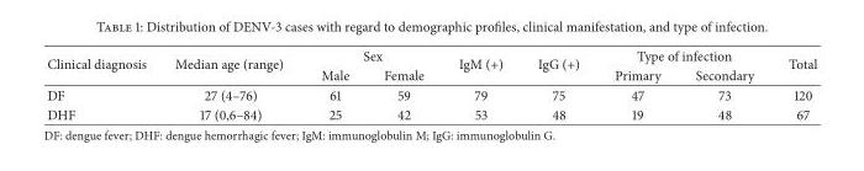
<table><thead><tr><td rowspan="2">Clinical diagnosis</td><td rowspan="2">Median age (range)</td><td colspan="2">Sex</td><td rowspan="2">IgM (+)</td><td rowspan="2">IgG (+)</td><td colspan="2">Type of infection</td><td rowspan="2">Total</td></tr><tr><td>Male</td><td>Female</td><td>Primary</td><td>Secondary</td></tr></thead><tbody><tr><td>DF</td><td>27 (4–76)</td><td>61</td><td>59</td><td>79</td><td>75</td><td>47</td><td>73</td><td>120</td></tr><tr><td>DHF</td><td>17 (0,6–84)</td><td>25</td><td>42</td><td>53</td><td>48</td><td>19</td><td>48</td><td>67</td></tr></tbody></table>